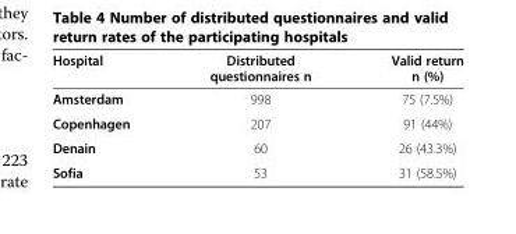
<table><thead><tr><td>Hospital</td><td>Distributed questionnaires n</td><td>Valid return n (%)</td></tr></thead><tbody><tr><td>Amsterdam</td><td>998</td><td>75 (7.5%)</td></tr><tr><td>Copenhagen</td><td>207</td><td>91 (44%)</td></tr><tr><td>Denain</td><td>60</td><td>26 (43.3%)</td></tr><tr><td>Sofia</td><td>53</td><td>31 (58.5%)</td></tr></tbody></table>